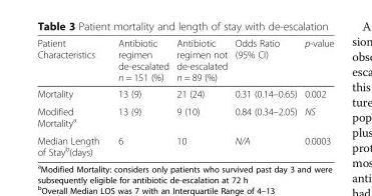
<table><thead><tr><td>Patient Characteristics</td><td>Antibiotic regimen de-escalated n = 151 (%)</td><td>Antibiotic regimen not de-escalated n = 89 (%)</td><td>Odds Ratio (95% CI)</td><td>p-value</td></tr></thead><tbody><tr><td>Mortality</td><td>13 (9)</td><td>21 (24)</td><td>0.31 (0.14–0.65)</td><td>0.002</td></tr><tr><td>Modified Mortality<sup>a</sup></td><td>13 (9)</td><td>9 (10)</td><td>0.84 (0.34–2.05)</td><td>NS</td></tr><tr><td>Median Length of Stay<sup>b</sup>(days)</td><td>6</td><td>10</td><td>N/A</td><td>0.0003</td></tr></tbody></table>